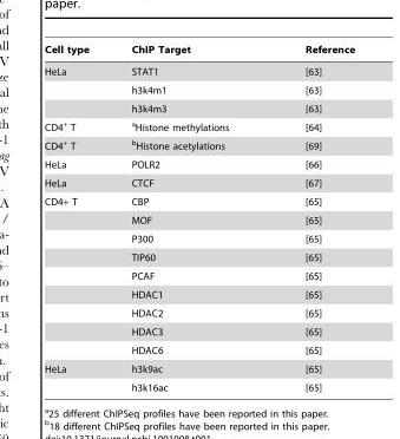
<table><thead><tr><td>Cell type</td><td>ChIP Target</td><td>Reference</td></tr></thead><tbody><tr><td rowspan="3">HeLa</td><td>STAT1</td><td>[63]</td></tr><tr><td>h3k4m1</td><td>[63]</td></tr><tr><td>h3k4m3</td><td>[63]</td></tr><tr><td>CD4<sup>+</sup> T</td><td>aHistone methylations</td><td>[64]</td></tr><tr><td>CD4<sup>+</sup> T</td><td>bHistone acetylations</td><td>[69]</td></tr><tr><td>HeLa</td><td>POLR2</td><td>[66]</td></tr><tr><td>HeLa</td><td>CTCF</td><td>[67]</td></tr><tr><td rowspan="9">CD4+ T</td><td>CBP</td><td>[65]</td></tr><tr><td>MOF</td><td>[65]</td></tr><tr><td>P300</td><td>[65]</td></tr><tr><td>TIP60</td><td>[65]</td></tr><tr><td>PCAF</td><td>[65]</td></tr><tr><td>HDAC1</td><td>[65]</td></tr><tr><td>HDAC2</td><td>[65]</td></tr><tr><td>HDAC3</td><td>[65]</td></tr><tr><td>HDAC6</td><td>[65]</td></tr><tr><td rowspan="2">HeLa</td><td>h3k9ac</td><td>[65]</td></tr><tr><td>h3k16ac</td><td>[65]</td></tr></tbody></table>